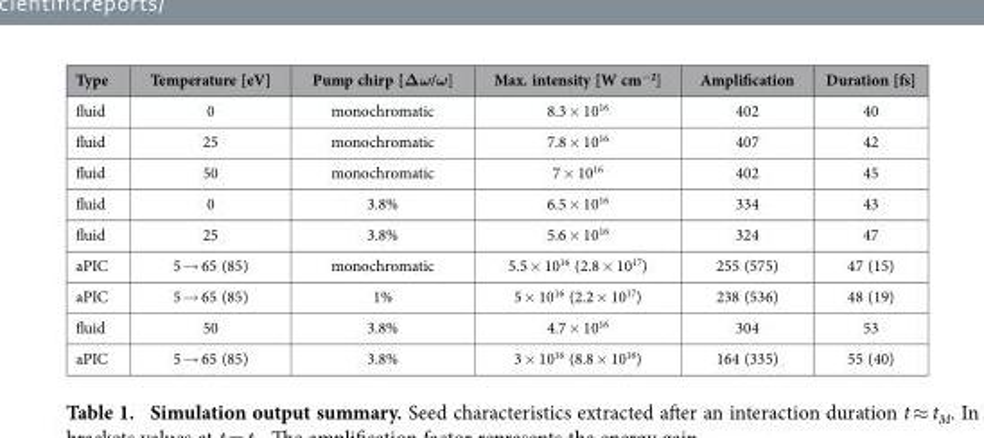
<table><thead><tr><td>Type</td><td>Temperature [eV]</td><td>Pump chirp [Δω/ω]</td><td>Max. intensity [W cm<sup>−2</sup>]</td><td>Amplification</td><td>Duration [fs]</td></tr></thead><tbody><tr><td>fluid</td><td>0</td><td>monochromatic</td><td>8.3 × 10<sup>16</sup></td><td>402</td><td>40</td></tr><tr><td>fluid</td><td>25</td><td>monochromatic</td><td>7.8 × 10<sup>16</sup></td><td>407</td><td>42</td></tr><tr><td>fluid</td><td>50</td><td>monochromatic</td><td>7 × 10<sup>16</sup></td><td>402</td><td>45</td></tr><tr><td>fluid</td><td>0</td><td>3.8%</td><td>6.5 × 10<sup>16</sup></td><td>334</td><td>43</td></tr><tr><td>fluid</td><td>25</td><td>3.8%</td><td>5.6 × 10<sup>16</sup></td><td>324</td><td>47</td></tr><tr><td>aPIC</td><td>5 → 65 (85)</td><td>monochromatic</td><td>5.5 × 10<sup>16</sup> (2.8 × 10<sup>17</sup>)</td><td>255 (575)</td><td>47 (15)</td></tr><tr><td>aPIC</td><td>5 → 65 (85)</td><td>1%</td><td>5 × 10<sup>16</sup> (2.2 × 10<sup>17</sup>)</td><td>238 (536)</td><td>48 (19)</td></tr><tr><td>fluid</td><td>50</td><td>3.8%</td><td>4.7 × 10<sup>16</sup></td><td>304</td><td>53</td></tr><tr><td>aPIC</td><td>5 → 65 (85)</td><td>3.8%</td><td>3 × 10<sup>16</sup> (8.8 × 10<sup>16</sup>)</td><td>164 (335)</td><td>55 (40)</td></tr></tbody></table>